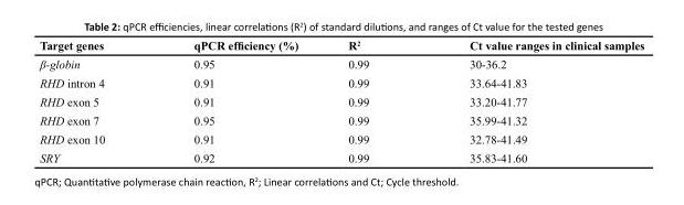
<table><thead><tr><td>Target genes</td><td>qPCR efficiency (%)</td><td>R<sup>2</sup></td><td>Ct value ranges in clinical samples</td></tr></thead><tbody><tr><td>β-globin</td><td>0.95</td><td>0.99</td><td>30-36.2</td></tr><tr><td>RHD intron 4</td><td>0.91</td><td>0.99</td><td>33.64-41.83</td></tr><tr><td>RHD exon 5</td><td>0.91</td><td>0.99</td><td>33.20-41.77</td></tr><tr><td>RHD exon 7</td><td>0.95</td><td>0.99</td><td>35.99-41.32</td></tr><tr><td>RHD exon 10</td><td>0.91</td><td>0.99</td><td>32.78-41.49</td></tr><tr><td>SRY</td><td>0.92</td><td>0.99</td><td>35.83-41.60</td></tr></tbody></table>